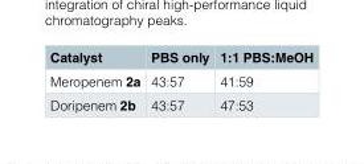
<table><thead><tr><td>Catalyst</td><td>PBS only</td><td>1:1 PBS:MeOH</td></tr></thead><tbody><tr><td>Meropenem 2a</td><td>43:57</td><td>41:59</td></tr><tr><td>Doripenem 2b</td><td>43:57</td><td>47:53</td></tr></tbody></table>